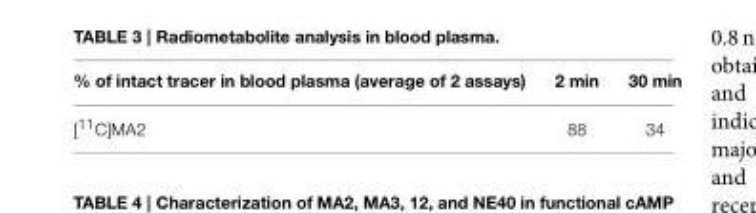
<table><thead><tr><td>% of intact tracer in blood plasma (average of 2 assays)</td><td>2 min</td><td>30 min</td></tr></thead><tbody><tr><td>[<sup>11</sup>C]MA2</td><td>88</td><td>34</td></tr></tbody></table>